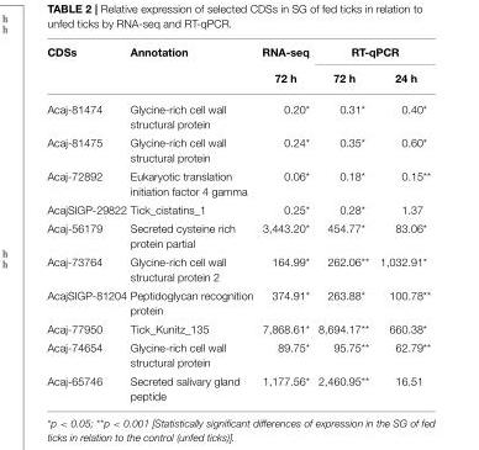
<table><thead><tr><td rowspan="2">CDSs</td><td rowspan="2">Annotation</td><td rowspan="2">RNA-seq 72 h</td><td colspan="2">RT-qPCR</td></tr><tr><td>72 h</td><td>24 h</td></tr></thead><tbody><tr><td>Acaj-81474</td><td>Glycine-rich cell wall structural protein</td><td>0.20*</td><td>0.31*</td><td>0.40*</td></tr><tr><td>Acaj-81475</td><td>Glycine-rich cell wall structural protein</td><td>0.24*</td><td>0.35*</td><td>0.60*</td></tr><tr><td>Acaj-72892</td><td>Eukaryotic translation initiation factor 4 gamma</td><td>0.06*</td><td>0.18*</td><td>0.15**</td></tr><tr><td>AcajSIGP-29822</td><td>Tick_cistatins_1</td><td>0.25*</td><td>0.28*</td><td>1.37</td></tr><tr><td>Acaj-56179</td><td>Secreted cysteine rich protein partial</td><td>3,443.20*</td><td>454.77*</td><td>83.06*</td></tr><tr><td>Acaj-73764</td><td>Glycine-rich cell wall structural protein 2</td><td>164.99*</td><td>262.06**</td><td>1,032.91*</td></tr><tr><td>AcajSIGP-81204</td><td>Peptidoglycan recognition protein</td><td>374.91*</td><td>263.88*</td><td>100.78**</td></tr><tr><td>Acaj-77950</td><td>Tick_Kunitz_135</td><td>7,868.61*</td><td>8,694.17**</td><td>660.38*</td></tr><tr><td>Acaj-74654</td><td>Glycine-rich cell wall structural protein</td><td>89.75*</td><td>95.75**</td><td>62.79**</td></tr><tr><td>Acaj-65746</td><td>Secreted salivary gland peptide</td><td>1,177.56*</td><td>2,460.95**</td><td>16.51</td></tr></tbody></table>